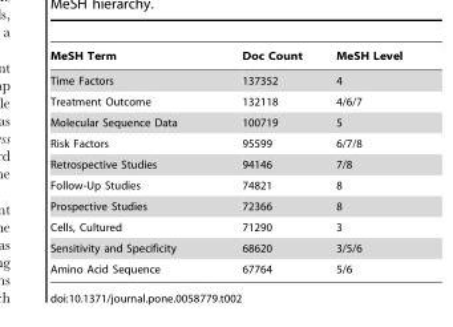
<table><thead><tr><td>MeSH Term</td><td>Doc Count</td><td>MeSH Level</td></tr></thead><tbody><tr><td>Time Factors</td><td>137352</td><td>4</td></tr><tr><td>Treatment Outcome</td><td>132118</td><td>4/6/7</td></tr><tr><td>Molecular Sequence Data</td><td>100719</td><td>5</td></tr><tr><td>Risk Factors</td><td>95599</td><td>6/7/8</td></tr><tr><td>Retrospective Studies</td><td>94146</td><td>7/8</td></tr><tr><td>Follow-Up Studies</td><td>74821</td><td>8</td></tr><tr><td>Prospective Studies</td><td>72366</td><td>8</td></tr><tr><td>Cells, Cultured</td><td>71290</td><td>3</td></tr><tr><td>Sensitivity and Specificity</td><td>68620</td><td>3/5/6</td></tr><tr><td>Amino Acid Sequence</td><td>67764</td><td>5/6</td></tr></tbody></table>